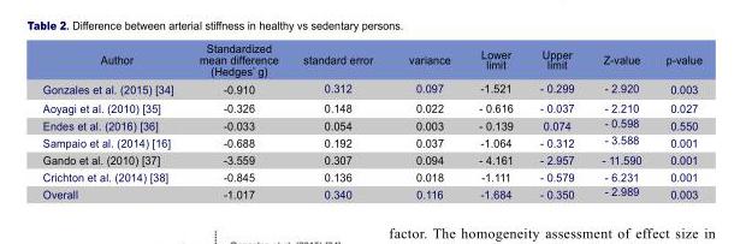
<table><thead><tr><td>Author</td><td>Standardized mean difference (Hedges’ g)</td><td>standard error</td><td>variance</td><td>Lower limit</td><td>Upper limit</td><td>Z-value</td><td>p-value</td></tr></thead><tbody><tr><td>Gonzales et al. (2015) [34]</td><td>-0.910</td><td>0.312</td><td>0.097</td><td>-1.521</td><td>- 0.299</td><td>- 2.920</td><td>0.003</td></tr><tr><td>Aoyagi et al. (2010) [35]</td><td>-0.326</td><td>0.148</td><td>0.022</td><td>- 0.616</td><td>- 0.037</td><td>- 2.210</td><td>0.027</td></tr><tr><td>Endes et al. (2016) [36]</td><td>-0.033</td><td>0.054</td><td>0.003</td><td>- 0.139</td><td>0.074</td><td>- 0.598</td><td>0.550</td></tr><tr><td>Sampaio et al. (2014) [16]</td><td>-0.688</td><td>0.192</td><td>0.037</td><td>-1.064</td><td>- 0.312</td><td>- 3.588</td><td>0.001</td></tr><tr><td>Gando et al. (2010) [37]</td><td>-3.559</td><td>0.307</td><td>0.094</td><td>- 4.161</td><td>- 2.957</td><td>- 11.590</td><td>0.001</td></tr><tr><td>Crichton et al. (2014) [38]</td><td>-0.845</td><td>0.136</td><td>0.018</td><td>-1.111</td><td>- 0.579</td><td>- 6.231</td><td>0.001</td></tr><tr><td>Overall</td><td>-1.017</td><td>0.340</td><td>0.116</td><td>-1.684</td><td>- 0.350</td><td>- 2.989</td><td>0.003</td></tr></tbody></table>